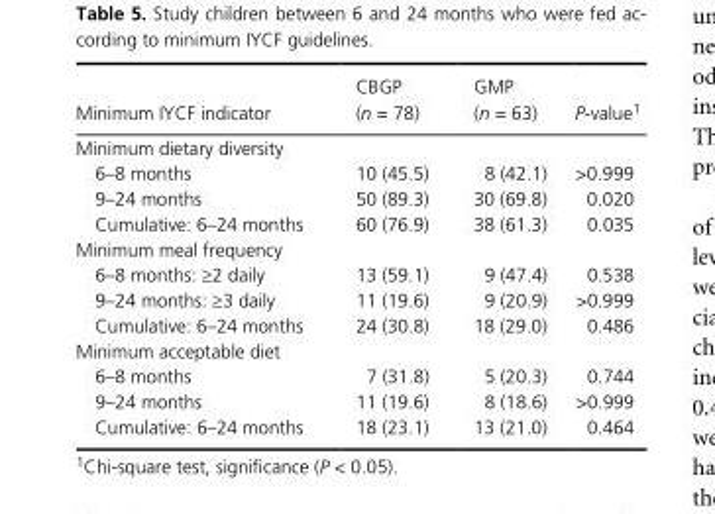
<table><thead><tr><td>Minimum IYCF indicator</td><td>CBGP (n = 78)</td><td>GMP (n = 63)</td><td>P- value1</td></tr></thead><tbody><tr><td colspan="4">Minimum dietary diversity</td></tr><tr><td>6–8 months</td><td>10 (45.5)</td><td>8 (42.1)</td><td>&gt;0.999</td></tr><tr><td>9–24 months</td><td>50 (89.3)</td><td>30 (69.8)</td><td>0.020</td></tr><tr><td>Cumulative: 6–24 months</td><td>60 (76.9)</td><td>38 (61.3)</td><td>0.035</td></tr><tr><td colspan="4">Minimum meal frequency</td></tr><tr><td>6–8 months: ≥2 daily</td><td>13 (59.1)</td><td>9 (47.4)</td><td>0.538</td></tr><tr><td>9–24 months: ≥3 daily</td><td>11 (19.6)</td><td>9 (20.9)</td><td>&gt;0.999</td></tr><tr><td>Cumulative: 6–24 months</td><td>24 (30.8)</td><td>18 (29.0)</td><td>0.486</td></tr><tr><td colspan="4">Minimum acceptable diet</td></tr><tr><td>6–8 months</td><td>7 (31.8)</td><td>5 (20.3)</td><td>0.744</td></tr><tr><td>9–24 months</td><td>11 (19.6)</td><td>8 (18.6)</td><td>&gt;0.999</td></tr><tr><td>Cumulative: 6–24 months</td><td>18 (23.1)</td><td>13 (21.0)</td><td>0.464</td></tr></tbody></table>